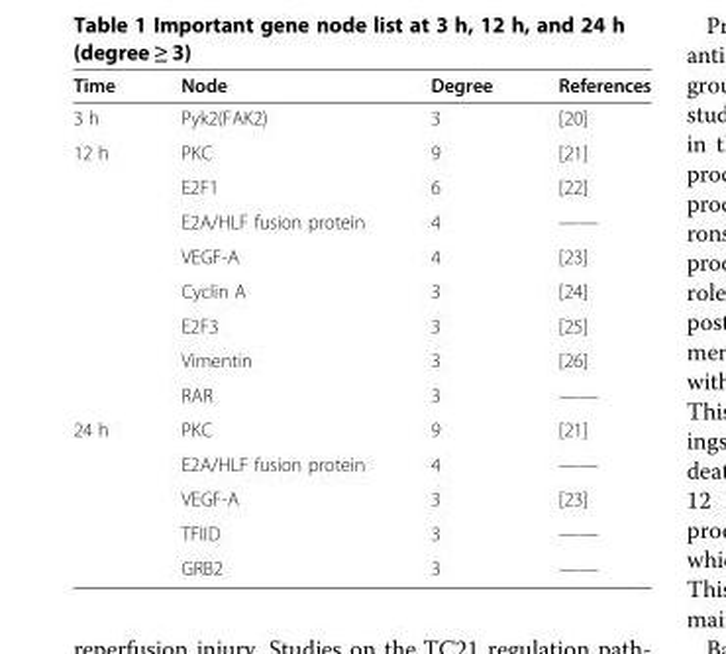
<table><thead><tr><td>Time</td><td>Node</td><td>Degree</td><td>References</td></tr></thead><tbody><tr><td>3 h</td><td>Pyk2(FAK2)</td><td>3</td><td>[20]</td></tr><tr><td rowspan="8">12 h</td><td>PKC</td><td>9</td><td>[21]</td></tr><tr><td>E2F1</td><td>6</td><td>[22]</td></tr><tr><td>E2A/HLF fusion protein</td><td>4</td><td>——</td></tr><tr><td>VEGF-A</td><td>4</td><td>[23]</td></tr><tr><td>Cyclin A</td><td>3</td><td>[24]</td></tr><tr><td>E2F3</td><td>3</td><td>[25]</td></tr><tr><td>Vimentin</td><td>3</td><td>[26]</td></tr><tr><td>RAR</td><td>3</td><td>——</td></tr><tr><td rowspan="5">24 h</td><td>PKC</td><td>9</td><td>[21]</td></tr><tr><td>E2A/HLF fusion protein</td><td>4</td><td>——</td></tr><tr><td>VEGF-A</td><td>3</td><td>[23]</td></tr><tr><td>TFIID</td><td>3</td><td>——</td></tr><tr><td>GRB2</td><td>3</td><td>——</td></tr></tbody></table>